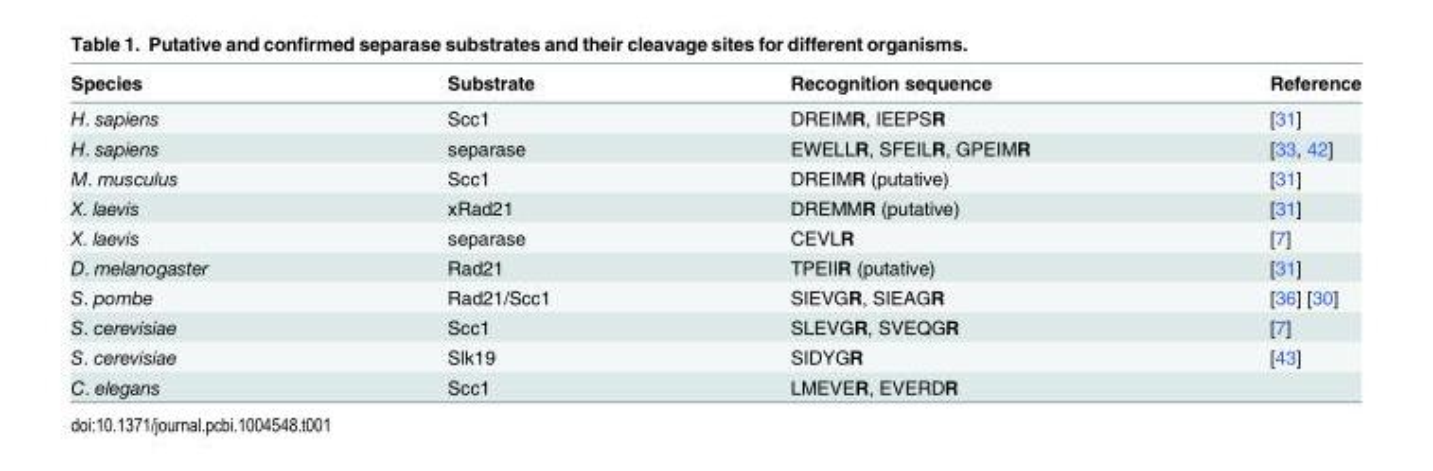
<table><thead><tr><td>Species</td><td>Substrate</td><td>Recognition sequence</td><td>Reference</td></tr></thead><tbody><tr><td>H. sapiens</td><td>Scc1</td><td>DREIMR, IEEPSR</td><td>[31]</td></tr><tr><td>H. sapiens</td><td>separase</td><td>EWELLR, SFEILR, GPEIMR</td><td>[33, 42]</td></tr><tr><td>M. musculus</td><td>Scc1</td><td>DREIMR (putative)</td><td>[31]</td></tr><tr><td>X. laevis</td><td>xRad21</td><td>DREMMR (putative)</td><td>[31]</td></tr><tr><td>X. laevis</td><td>separase</td><td>CEVLR</td><td>[7]</td></tr><tr><td>D. melanogaster</td><td>Rad21</td><td>TPEIIR (putative)</td><td>[31]</td></tr><tr><td>S. pombe</td><td>Rad21/Scc1</td><td>SIEVGR, SIEAGR</td><td>[36] [30]</td></tr><tr><td>S. cerevisiae</td><td>Scc1</td><td>SLEVGR, SVEQGR</td><td>[7]</td></tr><tr><td>S. cerevisiae</td><td>Slk19</td><td>SIDYGR</td><td>[43]</td></tr><tr><td>C. elegans</td><td>Scc1</td><td>LMEVER, EVERDR</td><td></td></tr></tbody></table>